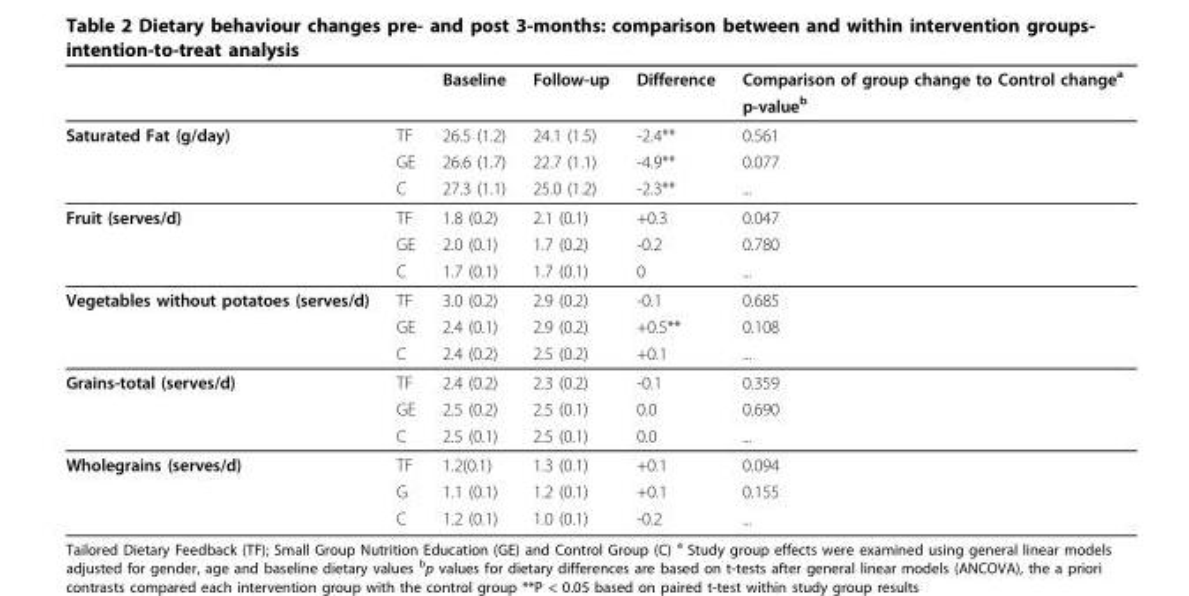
<table><thead><tr><td rowspan="2"></td><td rowspan="2"></td><td rowspan="2">Baseline</td><td rowspan="2">Follow-up</td><td rowspan="2">Difference</td><td rowspan="2">Comparison of group change to Control change<sup>a</sup> p-value<sup>b</sup></td></tr><tr></tr></thead><tbody><tr><td rowspan="3">Saturated Fat (g/day)</td><td>TF</td><td>26.5 (1.2)</td><td>24.1 (1.5)</td><td>-2.4**</td><td>0.561</td></tr><tr><td>GE</td><td>26.6 (1.7)</td><td>22.7 (1.1)</td><td>-4.9**</td><td>0.077</td></tr><tr><td>C</td><td>27.3 (1.1)</td><td>25.0 (1.2)</td><td>-2.3**</td><td>...</td></tr><tr><td rowspan="3">Fruit (serves/d)</td><td>TF</td><td>1.8 (0.2)</td><td>2.1 (0.1)</td><td>+0.3</td><td>0.047</td></tr><tr><td>GE</td><td>2.0 (0.1)</td><td>1.7 (0.2)</td><td>-0.2</td><td>0.780</td></tr><tr><td>C</td><td>1.7 (0.1)</td><td>1.7 (0.1)</td><td>0</td><td>...</td></tr><tr><td rowspan="3">Vegetables without potatoes (serves/d)</td><td>TF</td><td>3.0 (0.2)</td><td>2.9 (0.2)</td><td>-0.1</td><td>0.685</td></tr><tr><td>GE</td><td>2.4 (0.1)</td><td>2.9 (0.2)</td><td>+0.5**</td><td>0.108</td></tr><tr><td>C</td><td>2.4 (0.2)</td><td>2.5 (0.2)</td><td>+0.1</td><td>...</td></tr><tr><td rowspan="3">Grains-total (serves/d)</td><td>TF</td><td>2.4 (0.2)</td><td>2.3 (0.2)</td><td>-0.1</td><td>0.359</td></tr><tr><td>GE</td><td>2.5 (0.2)</td><td>2.5 (0.1)</td><td>0.0</td><td>0.690</td></tr><tr><td>C</td><td>2.5 (0.1)</td><td>2.5 (0.1)</td><td>0.0</td><td>...</td></tr><tr><td rowspan="3">Wholegrains (serves/d)</td><td>TF</td><td>1.2(0.1)</td><td>1.3 (0.1)</td><td>+0.1</td><td>0.094</td></tr><tr><td>G</td><td>1.1 (0.1)</td><td>1.2 (0.1)</td><td>+0.1</td><td>0.155</td></tr><tr><td>C</td><td>1.2 (0.1)</td><td>1.0 (0.1)</td><td>-0.2</td><td>...</td></tr></tbody></table>